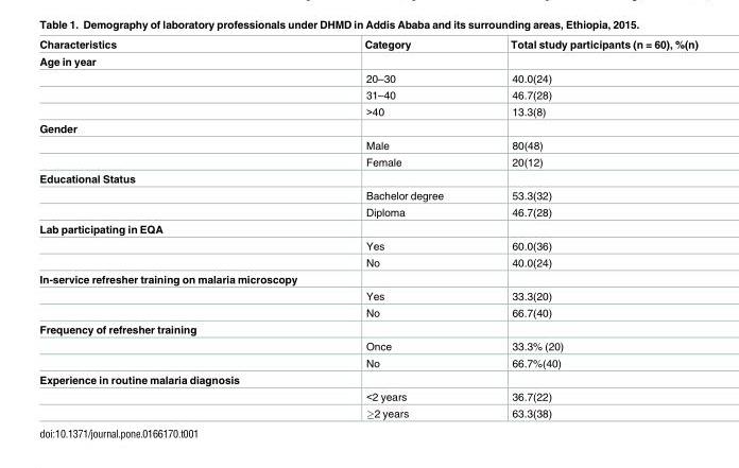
<table><thead><tr><td>Characteristics</td><td>Category</td><td>Total study participants (n = 60), %(n)</td></tr></thead><tbody><tr><td colspan="3">Age in year</td></tr><tr><td></td><td>20–30</td><td>40.0(24)</td></tr><tr><td></td><td>31–40</td><td>46.7(28)</td></tr><tr><td></td><td>&gt;40</td><td>13.3(8)</td></tr><tr><td colspan="3">Gender</td></tr><tr><td></td><td>Male</td><td>80(48)</td></tr><tr><td></td><td>Female</td><td>20(12)</td></tr><tr><td colspan="3">Educational Status</td></tr><tr><td></td><td>Bachelor degree</td><td>53.3(32)</td></tr><tr><td></td><td>Diploma</td><td>46.7(28)</td></tr><tr><td colspan="3">Lab participating in EQA</td></tr><tr><td></td><td>Yes</td><td>60.0(36)</td></tr><tr><td></td><td>No</td><td>40.0(24)</td></tr><tr><td colspan="3">In-service refresher training on malaria microscopy</td></tr><tr><td></td><td>Yes</td><td>33.3(20)</td></tr><tr><td></td><td>No</td><td>66.7(40)</td></tr><tr><td colspan="3">Frequency of refresher training</td></tr><tr><td></td><td>Once</td><td>33.3% (20)</td></tr><tr><td></td><td>No</td><td>66.7%(40)</td></tr><tr><td colspan="3">Experience in routine malaria diagnosis</td></tr><tr><td></td><td>&lt;2 years</td><td>36.7(22)</td></tr><tr><td></td><td>≥2 years</td><td>63.3(38)</td></tr></tbody></table>